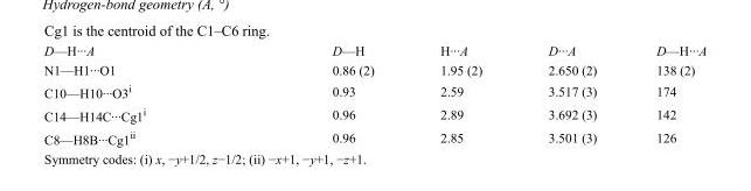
<table><tbody><tr><td>D—H···A</td><td>D—H</td><td>H···A</td><td>D···A</td><td>D—H···A</td></tr><tr><td>N1—H1···O1</td><td>0.86 (2)</td><td>1.95 (2)</td><td>2.650 (2)</td><td>138 (2)</td></tr><tr><td>C10—H10···O3<sup>i</sup></td><td>0.93</td><td>2.59</td><td>3.517 (3)</td><td>174</td></tr><tr><td>C14—H14C···Cg1<sup>i</sup></td><td>0.96</td><td>2.89</td><td>3.692 (3)</td><td>142</td></tr><tr><td>C8—H8B···Cg1<sup>ii</sup></td><td>0.96</td><td>2.85</td><td>3.501 (3)</td><td>126</td></tr></tbody></table>